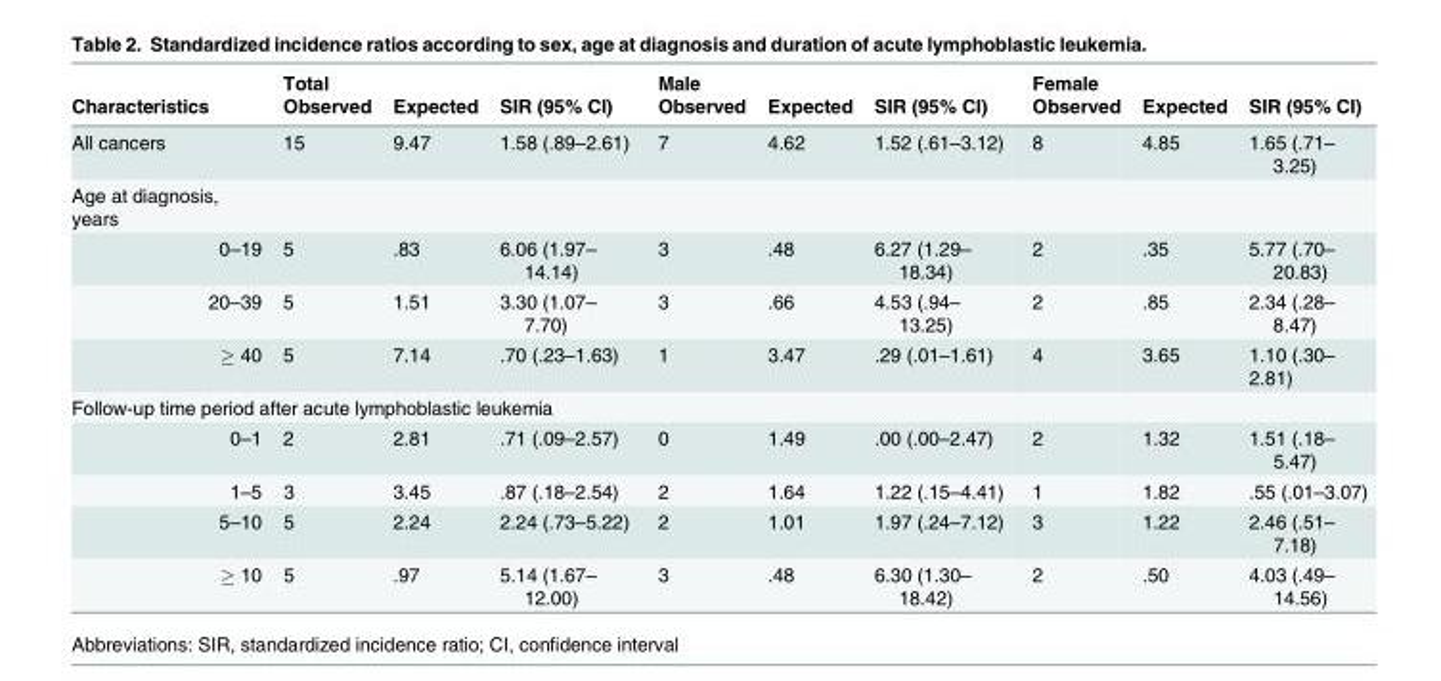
<table><thead><tr><td rowspan="2">Characteristics</td><td rowspan="2">Total Observed</td><td rowspan="2">Expected</td><td rowspan="2">SIR (95% CI)</td><td rowspan="2">Male Observed</td><td rowspan="2">Expected</td><td rowspan="2">SIR (95% CI)</td><td rowspan="2">Female Observed</td><td rowspan="2">Expected</td><td rowspan="2">SIR (95% CI)</td></tr><tr></tr></thead><tbody><tr><td>All cancers</td><td>15</td><td>9.47</td><td>1.58 (.89–2.61)</td><td>7</td><td>4.62</td><td>1.52 (.61–3.12)</td><td>8</td><td>4.85</td><td>1.65 (.71– 3.25)</td></tr><tr><td colspan="10">Age at diagnosis, years</td></tr><tr><td>0–19</td><td>5</td><td>.83</td><td>6.06 (1.97– 14.14)</td><td>3</td><td>.48</td><td>6.27 (1.29– 18.34)</td><td>2</td><td>.35</td><td>5.77 (.70– 20.83)</td></tr><tr><td>20–39</td><td>5</td><td>1.51</td><td>3.30 (1.07– 7.70)</td><td>3</td><td>.66</td><td>4.53 (.94– 13.25)</td><td>2</td><td>.85</td><td>2.34 (.28– 8.47)</td></tr><tr><td>≥ 40</td><td>5</td><td>7.14</td><td>.70 (.23–1.63)</td><td>1</td><td>3.47</td><td>.29 (.01–1.61)</td><td>4</td><td>3.65</td><td>1.10 (.30– 2.81)</td></tr><tr><td colspan="10">Follow-up time period after acute lymphoblastic leukemia</td></tr><tr><td>0–1</td><td>2</td><td>2.81</td><td>.71 (.09–2.57)</td><td>0</td><td>1.49</td><td>.00 (.00–2.47)</td><td>2</td><td>1.32</td><td>1.51 (.18– 5.47)</td></tr><tr><td>1–5</td><td>3</td><td>3.45</td><td>.87 (.18–2.54)</td><td>2</td><td>1.64</td><td>1.22 (.15–4.41)</td><td>1</td><td>1.82</td><td>.55 (.01–3.07)</td></tr><tr><td>5–10</td><td>5</td><td>2.24</td><td>2.24 (.73–5.22)</td><td>2</td><td>1.01</td><td>1.97 (.24–7.12)</td><td>3</td><td>1.22</td><td>2.46 (.51– 7.18)</td></tr><tr><td>≥ 10</td><td>5</td><td>.97</td><td>5.14 (1.67– 12.00)</td><td>3</td><td>.48</td><td>6.30 (1.30– 18.42)</td><td>2</td><td>.50</td><td>4.03 (.49– 14.56)</td></tr></tbody></table>